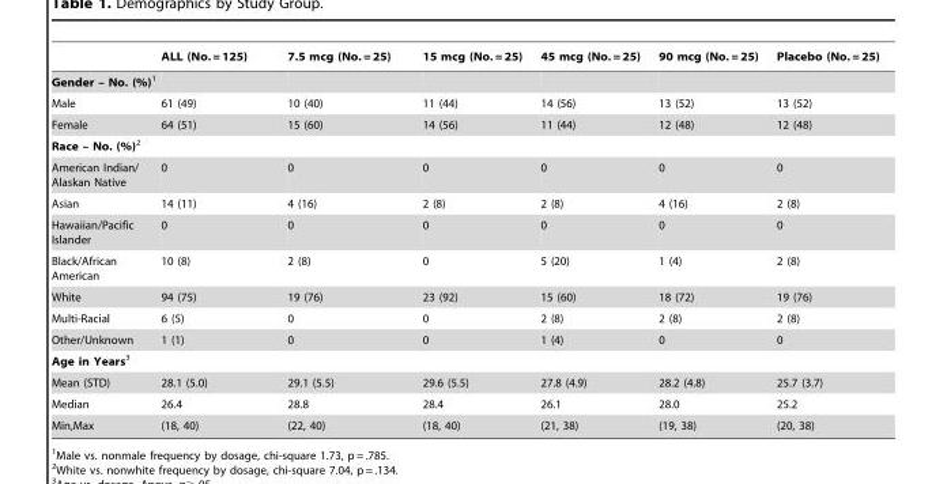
<table><thead><tr><td></td><td>ALL (No. = 125)</td><td>7.5 mcg (No. = 25)</td><td>15 mcg (No. = 25)</td><td>45 mcg (No. = 25)</td><td>90 mcg (No. = 25)</td><td>Placebo (No. = 25)</td></tr></thead><tbody><tr><td colspan="7">Gender – No. (%)1</td></tr><tr><td>Male</td><td>61 (49)</td><td>10 (40)</td><td>11 (44)</td><td>14 (56)</td><td>13 (52)</td><td>13 (52)</td></tr><tr><td>Female</td><td>64 (51)</td><td>15 (60)</td><td>14 (56)</td><td>11 (44)</td><td>12 (48)</td><td>12 (48)</td></tr><tr><td colspan="7">Race – No. (%)2</td></tr><tr><td>American Indian/ Alaskan Native</td><td>0</td><td>0</td><td>0</td><td>0</td><td>0</td><td>0</td></tr><tr><td>Asian</td><td>14 (11)</td><td>4 (16)</td><td>2 (8)</td><td>2 (8)</td><td>4 (16)</td><td>2 (8)</td></tr><tr><td>Hawaiian/Pacific Islander</td><td>0</td><td>0</td><td>0</td><td>0</td><td>0</td><td>0</td></tr><tr><td>Black/African American</td><td>10 (8)</td><td>2 (8)</td><td>0</td><td>5 (20)</td><td>1 (4)</td><td>2 (8)</td></tr><tr><td>White</td><td>94 (75)</td><td>19 (76)</td><td>23 (92)</td><td>15 (60)</td><td>18 (72)</td><td>19 (76)</td></tr><tr><td>Multi-Racial</td><td>6 (5)</td><td>0</td><td>0</td><td>2 (8)</td><td>2 (8)</td><td>2 (8)</td></tr><tr><td>Other/Unknown</td><td>1 (1)</td><td>0</td><td>0</td><td>1 (4)</td><td>0</td><td>0</td></tr><tr><td colspan="7">Age in Years3</td></tr><tr><td>Mean (STD)</td><td>28.1 (5.0)</td><td>29.1 (5.5)</td><td>29.6 (5.5)</td><td>27.8 (4.9)</td><td>28.2 (4.8)</td><td>25.7 (3.7)</td></tr><tr><td>Median</td><td>26.4</td><td>28.8</td><td>28.4</td><td>26.1</td><td>28.0</td><td>25.2</td></tr><tr><td>Min,Max</td><td>(18, 40)</td><td>(22, 40)</td><td>(18, 40)</td><td>(21, 38)</td><td>(19, 38)</td><td>(20, 38)</td></tr></tbody></table>